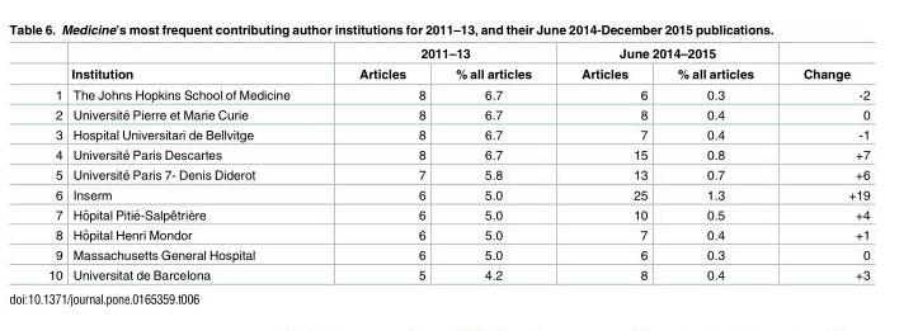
<table><thead><tr><td rowspan="2"></td><td rowspan="2">Institution</td><td colspan="2">2011–13</td><td colspan="2">June 2014–2015</td><td rowspan="2">Change</td></tr><tr><td>Articles</td><td>% all articles</td><td>Articles</td><td>% all articles</td></tr></thead><tbody><tr><td>1</td><td>The Johns Hopkins School of Medicine</td><td>8</td><td>6.7</td><td>6</td><td>0.3</td><td>-2</td></tr><tr><td>2</td><td>Universite´ Pierre et Marie Curie</td><td>8</td><td>6.7</td><td>8</td><td>0.4</td><td>0</td></tr><tr><td>3</td><td>Hospital Universitari de Bellvitge</td><td>8</td><td>6.7</td><td>7</td><td>0.4</td><td>-1</td></tr><tr><td>4</td><td>Universite´ Paris Descartes</td><td>8</td><td>6.7</td><td>15</td><td>0.8</td><td>+7</td></tr><tr><td>5</td><td>Universite´ Paris 7- Denis Diderot</td><td>7</td><td>5.8</td><td>13</td><td>0.7</td><td>+6</td></tr><tr><td>6</td><td>Inserm</td><td>6</td><td>5.0</td><td>25</td><td>1.3</td><td>+19</td></tr><tr><td>7</td><td>Hoˆpital Pitie´-Salpêtrière</td><td>6</td><td>5.0</td><td>10</td><td>0.5</td><td>+4</td></tr><tr><td>8</td><td>Hoˆpital Henri Mondor</td><td>6</td><td>5.0</td><td>7</td><td>0.4</td><td>+1</td></tr><tr><td>9</td><td>Massachusetts General Hospital</td><td>6</td><td>5.0</td><td>6</td><td>0.3</td><td>0</td></tr><tr><td>10</td><td>Universitat de Barcelona</td><td>5</td><td>4.2</td><td>8</td><td>0.4</td><td>+3</td></tr></tbody></table>